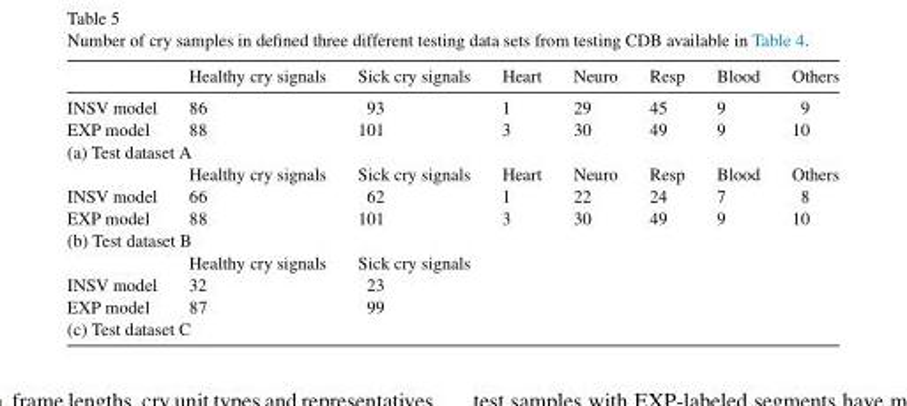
<table><thead><tr><td></td><td>Healthy cry signals</td><td>Sick cry signals</td><td>Heart</td><td>Neuro</td><td>Resp</td><td>Blood</td><td>Others</td></tr></thead><tbody><tr><td>INSV model</td><td>86</td><td>93</td><td>1</td><td>29</td><td>45</td><td>9</td><td>9</td></tr><tr><td>EXP model</td><td>88</td><td>101</td><td>3</td><td>30</td><td>49</td><td>9</td><td>10</td></tr><tr><td colspan="8">(a) Test dataset A</td></tr><tr><td></td><td>Healthy cry signals</td><td>Sick cry signals</td><td>Heart</td><td>Neuro</td><td>Resp</td><td>Blood</td><td>Others</td></tr><tr><td>INSV model</td><td>66</td><td>62</td><td>1</td><td>22</td><td>24</td><td>7</td><td>8</td></tr><tr><td>EXP model</td><td>88</td><td>101</td><td>3</td><td>30</td><td>49</td><td>9</td><td>10</td></tr><tr><td colspan="8">(b) Test dataset B</td></tr><tr><td></td><td>Healthy cry signals</td><td>Sick cry signals</td><td></td><td></td><td></td><td></td><td></td></tr><tr><td>INSV model</td><td>32</td><td>23</td><td></td><td></td><td></td><td></td><td></td></tr><tr><td>EXP model</td><td>87</td><td>99</td><td></td><td></td><td></td><td></td><td></td></tr><tr><td colspan="8">(c) Test dataset C</td></tr></tbody></table>